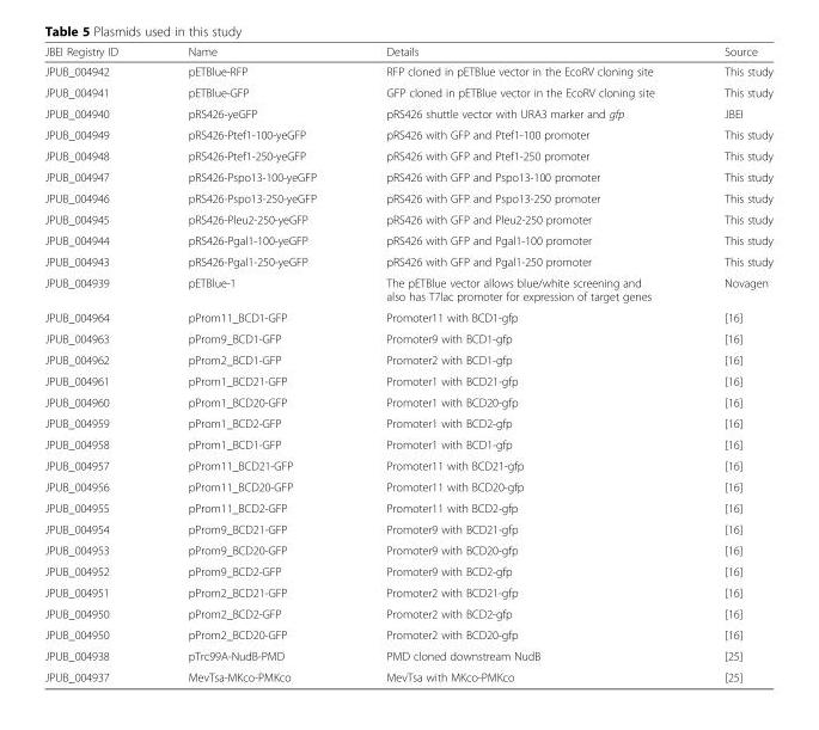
<table><thead><tr><td>JBEI Registry ID</td><td>Name</td><td>Details</td><td>Source</td></tr></thead><tbody><tr><td>JPUB_004942</td><td>pETBlue-RFP</td><td>RFP cloned in pETBlue vector in the EcoRV cloning site</td><td>This study</td></tr><tr><td>JPUB_004941</td><td>pETBlue-GFP</td><td>GFP cloned in pETBlue vector in the EcoRV cloning site</td><td>This study</td></tr><tr><td>JPUB_004940</td><td>pRS426-yeGFP</td><td>pRS426 shuttle vector with URA3 marker and gfp</td><td>JBEI</td></tr><tr><td>JPUB_004949</td><td>pRS426-Ptef1-100-yeGFP</td><td>pRS426 with GFP and Ptef1-100 promoter</td><td>This study</td></tr><tr><td>JPUB_004948</td><td>pRS426-Ptef1-250-yeGFP</td><td>pRS426 with GFP and Ptef1-250 promoter</td><td>This study</td></tr><tr><td>JPUB_004947</td><td>pRS426-Pspo13-100-yeGFP</td><td>pRS426 with GFP and Pspo13-100 promoter</td><td>This study</td></tr><tr><td>JPUB_004946</td><td>pRS426-Pspo13-250-yeGFP</td><td>pRS426 with GFP and Pspo13-250 promoter</td><td>This study</td></tr><tr><td>JPUB_004945</td><td>pRS426-Pleu2-250-yeGFP</td><td>pRS426 with GFP and Pleu2-250 promoter</td><td>This study</td></tr><tr><td>JPUB_004944</td><td>pRS426-Pgal1-100-yeGFP</td><td>pRS426 with GFP and Pgal1-100 promoter</td><td>This study</td></tr><tr><td>JPUB_004943</td><td>pRS426-Pgal1-250-yeGFP</td><td>pRS426 with GFP and Pgal1-250 promoter</td><td>This study</td></tr><tr><td>JPUB_004939</td><td>pETBlue-1</td><td>The pETBlue vector allows blue/white screening and also has T7lac promoter for expression of target genes</td><td>Novagen</td></tr><tr><td>JPUB_004964</td><td>pProm11_BCD1-GFP</td><td>Promoter11 with BCD1-gfp</td><td>[16]</td></tr><tr><td>JPUB_004963</td><td>pProm9_BCD1-GFP</td><td>Promoter9 with BCD1-gfp</td><td>[16]</td></tr><tr><td>JPUB_004962</td><td>pProm2_BCD1-GFP</td><td>Promoter2 with BCD1-gfp</td><td>[16]</td></tr><tr><td>JPUB_004961</td><td>pProm1_BCD21-GFP</td><td>Promoter1 with BCD21-gfp</td><td>[16]</td></tr><tr><td>JPUB_004960</td><td>pProm1_BCD20-GFP</td><td>Promoter1 with BCD20-gfp</td><td>[16]</td></tr><tr><td>JPUB_004959</td><td>pProm1_BCD2-GFP</td><td>Promoter1 with BCD2-gfp</td><td>[16]</td></tr><tr><td>JPUB_004958</td><td>pProm1_BCD1-GFP</td><td>Promoter1 with BCD1-gfp</td><td>[16]</td></tr><tr><td>JPUB_004957</td><td>pProm11_BCD21-GFP</td><td>Promoter11 with BCD21-gfp</td><td>[16]</td></tr><tr><td>JPUB_004956</td><td>pProm11_BCD20-GFP</td><td>Promoter11 with BCD20-gfp</td><td>[16]</td></tr><tr><td>JPUB_004955</td><td>pProm11_BCD2-GFP</td><td>Promoter11 with BCD2-gfp</td><td>[16]</td></tr><tr><td>JPUB_004954</td><td>pProm9_BCD21-GFP</td><td>Promoter9 with BCD21-gfp</td><td>[16]</td></tr><tr><td>JPUB_004953</td><td>pProm9_BCD20-GFP</td><td>Promoter9 with BCD20-gfp</td><td>[16]</td></tr><tr><td>JPUB_004952</td><td>pProm9_BCD2-GFP</td><td>Promoter9 with BCD2-gfp</td><td>[16]</td></tr><tr><td>JPUB_004951</td><td>pProm2_BCD21-GFP</td><td>Promoter2 with BCD21-gfp</td><td>[16]</td></tr><tr><td>JPUB_004950</td><td>pProm2_BCD2-GFP</td><td>Promoter2 with BCD2-gfp</td><td>[16]</td></tr><tr><td>JPUB_004950</td><td>pProm2_BCD20-GFP</td><td>Promoter2 with BCD20-gfp</td><td>[16]</td></tr><tr><td>JPUB_004938</td><td>pTrc99A-NudB-PMD</td><td>PMD cloned downstream NudB</td><td>[25]</td></tr><tr><td>JPUB_004937</td><td>MevTsa-MKco-PMKco</td><td>MevTsa with MKco-PMKco</td><td>[25]</td></tr></tbody></table>